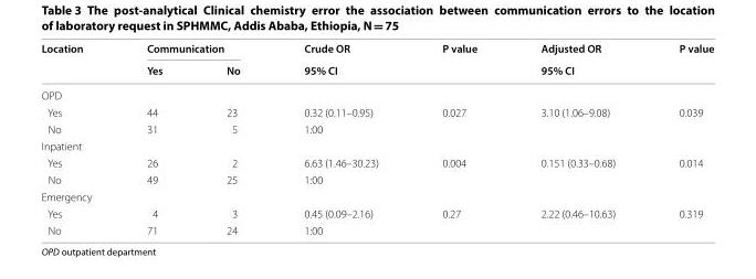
<table><thead><tr><td rowspan="2">Location</td><td colspan="2">Communication</td><td rowspan="2">Crude OR 95% CI</td><td rowspan="2">P value</td><td rowspan="2">Adjusted OR 95% CI</td><td rowspan="2">P value</td></tr><tr><td>Yes</td><td>No</td></tr></thead><tbody><tr><td colspan="7">OPD</td></tr><tr><td>Yes</td><td>44</td><td>23</td><td>0.32 (0.11–0.95)</td><td>0.027</td><td>3.10 (1.06–9.08)</td><td>0.039</td></tr><tr><td>No</td><td>31</td><td>5</td><td>1:00</td><td></td><td></td><td></td></tr><tr><td colspan="7">Inpatient</td></tr><tr><td>Yes</td><td>26</td><td>2</td><td>6.63 (1.46–30.23)</td><td>0.004</td><td>0.151 (0.33–0.68)</td><td>0.014</td></tr><tr><td>No</td><td>49</td><td>25</td><td>1:00</td><td></td><td></td><td></td></tr><tr><td colspan="7">Emergency</td></tr><tr><td>Yes</td><td>4</td><td>3</td><td>0.45 (0.09–2.16)</td><td>0.27</td><td>2.22 (0.46–10.63)</td><td>0.319</td></tr><tr><td>No</td><td>71</td><td>24</td><td>1:00</td><td></td><td></td><td></td></tr></tbody></table>